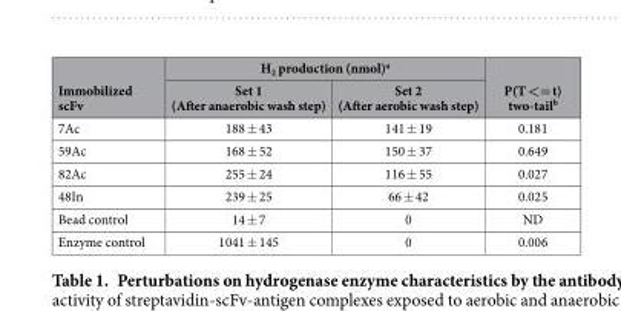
<table><thead><tr><td rowspan="2">Immobilized scFv</td><td colspan="2">H<sub>2</sub> production (nmol)<sup>a</sup></td><td rowspan="2">P(T &lt;= t) two-tail<sup>b</sup></td></tr><tr><td>Set 1 (After anaerobic wash step)</td><td>Set 2 (After aerobic wash step)</td></tr></thead><tbody><tr><td>7Ac</td><td>188 ± 43</td><td>141 ± 19</td><td>0.181</td></tr><tr><td>59Ac</td><td>168 ± 52</td><td>150 ± 37</td><td>0.649</td></tr><tr><td>82Ac</td><td>255 ± 24</td><td>116 ± 55</td><td>0.027</td></tr><tr><td>48In</td><td>239 ± 25</td><td>66 ± 42</td><td>0.025</td></tr><tr><td>Bead control</td><td>14 ± 7</td><td>0</td><td>ND</td></tr><tr><td>Enzyme control</td><td>1041 ± 145</td><td>0</td><td>0.006</td></tr></tbody></table>